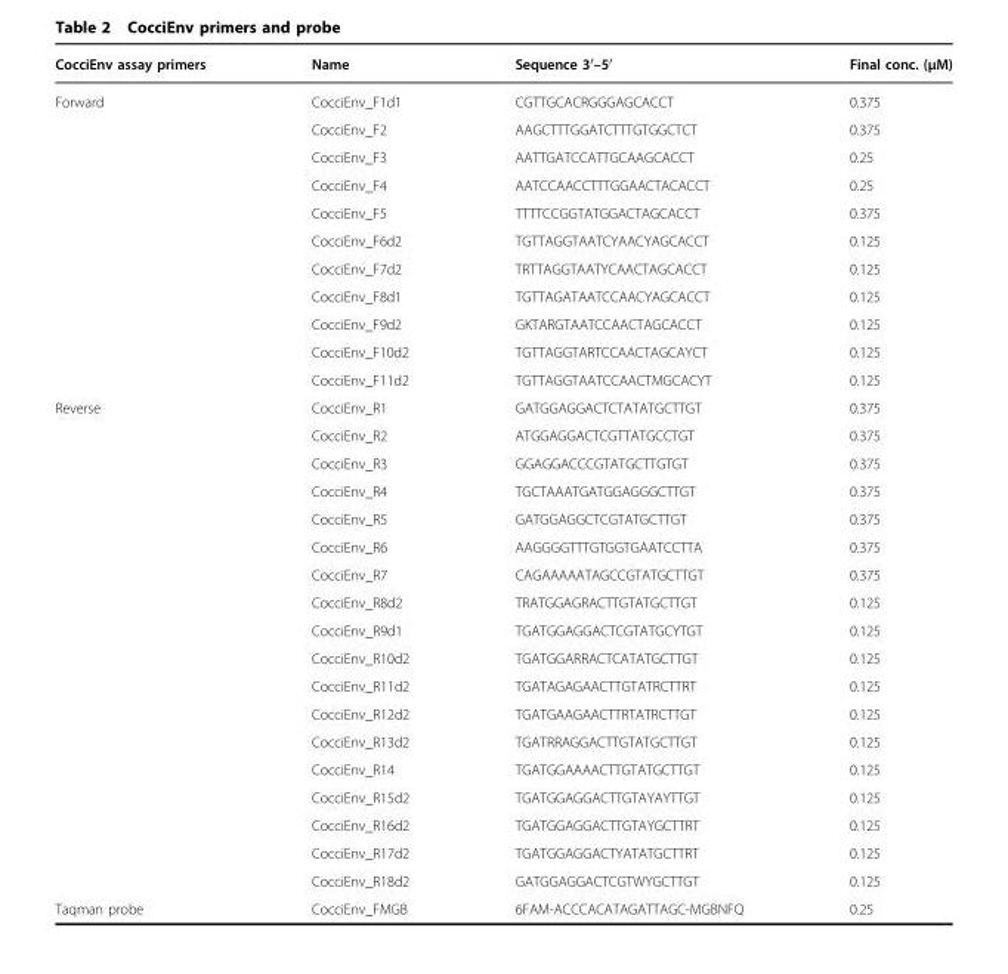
<table><thead><tr><td>CocciEnv assay primers</td><td>Name</td><td>Sequence 3′–5′</td><td>Final conc. (μM)</td></tr></thead><tbody><tr><td rowspan="11">Forward</td><td>CocciEnv_F1d1</td><td>CGTTGCACRGGGAGCACCT</td><td>0.375</td></tr><tr><td>CocciEnv_F2</td><td>AAGCTTTGGATCTTTGTGGCTCT</td><td>0.375</td></tr><tr><td>CocciEnv_F3</td><td>AATTGATCCATTGCAAGCACCT</td><td>0.25</td></tr><tr><td>CocciEnv_F4</td><td>AATCCAACCTTTGGAACTACACCT</td><td>0.25</td></tr><tr><td>CocciEnv_F5</td><td>TTTTCCGGTATGGACTAGCACCT</td><td>0.375</td></tr><tr><td>CocciEnv_F6d2</td><td>TGTTAGGTAATCYAACYAGCACCT</td><td>0.125</td></tr><tr><td>CocciEnv_F7d2</td><td>TRTTAGGTAATYCAACTAGCACCT</td><td>0.125</td></tr><tr><td>CocciEnv_F8d1</td><td>TGTTAGATAATCCAACYAGCACCT</td><td>0.125</td></tr><tr><td>CocciEnv_F9d2</td><td>GKTARGTAATCCAACTAGCACCT</td><td>0.125</td></tr><tr><td>CocciEnv_F10d2</td><td>TGTTAGGTARTCCAACTAGCAYCT</td><td>0.125</td></tr><tr><td>CocciEnv_F11d2</td><td>TGTTAGGTAATCCAACTMGCACYT</td><td>0.125</td></tr><tr><td rowspan="18">Reverse</td><td>CocciEnv_R1</td><td>GATGGAGGACTCTATATGCTTGT</td><td>0.375</td></tr><tr><td>CocciEnv_R2</td><td>ATGGAGGACTCGTTATGCCTGT</td><td>0.375</td></tr><tr><td>CocciEnv_R3</td><td>GGAGGACCCGTATGCTTGTGT</td><td>0.375</td></tr><tr><td>CocciEnv_R4</td><td>TGCTAAATGATGGAGGGCTTGT</td><td>0.375</td></tr><tr><td>CocciEnv_R5</td><td>GATGGAGGCTCGTATGCTTGT</td><td>0.375</td></tr><tr><td>CocciEnv_R6</td><td>AAGGGGTTTGTGGTGAATCCTTA</td><td>0.375</td></tr><tr><td>CocciEnv_R7</td><td>CAGAAAAATAGCCGTATGCTTGT</td><td>0.375</td></tr><tr><td>CocciEnv_R8d2</td><td>TRATGGAGRACTTGTATGCTTGT</td><td>0.125</td></tr><tr><td>CocciEnv_R9d1</td><td>TGATGGAGGACTCGTATGCYTGT</td><td>0.125</td></tr><tr><td>CocciEnv_R10d2</td><td>TGATGGARRACTCATATGCTTGT</td><td>0.125</td></tr><tr><td>CocciEnv_R11d2</td><td>TGATAGAGAACTTGTATRCTTRT</td><td>0.125</td></tr><tr><td>CocciEnv_R12d2</td><td>TGATGAAGAACTTRTATRCTTGT</td><td>0.125</td></tr><tr><td>CocciEnv_R13d2</td><td>TGATRRAGGACTTGTATGCTTGT</td><td>0.125</td></tr><tr><td>CocciEnv_R14</td><td>TGATGGAAAACTTGTATGCTTGT</td><td>0.125</td></tr><tr><td>CocciEnv_R15d2</td><td>TGATGGAGGACTTGTAYAYTTGT</td><td>0.125</td></tr><tr><td>CocciEnv_R16d2</td><td>TGATGGAGGACTTGTAYGCTTRT</td><td>0.125</td></tr><tr><td>CocciEnv_R17d2</td><td>TGATGGAGGACTYATATGCTTRT</td><td>0.125</td></tr><tr><td>CocciEnv_R18d2</td><td>GATGGAGGACTCGTWYGCTTGT</td><td>0.125</td></tr><tr><td>Taqman probe</td><td>CocciEnv_FMGB</td><td>6FAM-ACCCACATAGATTAGC-MGBNFQ</td><td>0.25</td></tr></tbody></table>